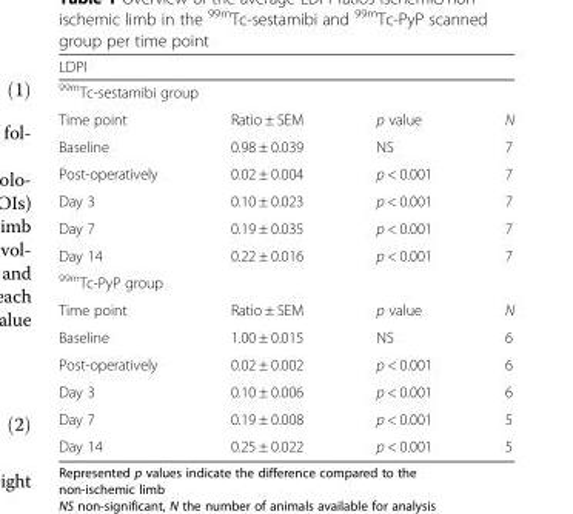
<table><thead><tr><td rowspan="2" colspan="4">LDPI <sup>99m</sup>Tc-sestamibi group</td></tr><tr></tr><tr><td>Time point</td><td>Ratio ± SEM</td><td>p value</td><td>N</td></tr></thead><tbody><tr><td>Baseline</td><td>0.98 ± 0.039</td><td>NS</td><td>7</td></tr><tr><td>Post-operatively</td><td>0.02 ± 0.004</td><td>p &lt; 0.001</td><td>7</td></tr><tr><td>Day 3</td><td>0.10 ± 0.023</td><td>p &lt; 0.001</td><td>7</td></tr><tr><td>Day 7</td><td>0.19 ± 0.035</td><td>p &lt; 0.001</td><td>7</td></tr><tr><td>Day 14</td><td>0.22 ± 0.016</td><td>p &lt; 0.001</td><td>7</td></tr><tr><td colspan="4"><sup>99m</sup>Tc-PyP group</td></tr><tr><td>Time point</td><td>Ratio ± SEM</td><td>p value</td><td>N</td></tr><tr><td>Baseline</td><td>1.00 ± 0.015</td><td>NS</td><td>6</td></tr><tr><td>Post-operatively</td><td>0.02 ± 0.002</td><td>p &lt; 0.001</td><td>6</td></tr><tr><td>Day 3</td><td>0.10 ± 0.006</td><td>p &lt; 0.001</td><td>6</td></tr><tr><td>Day 7</td><td>0.19 ± 0.008</td><td>p &lt; 0.001</td><td>5</td></tr><tr><td>Day 14</td><td>0.25 ± 0.022</td><td>p &lt; 0.001</td><td>5</td></tr></tbody></table>